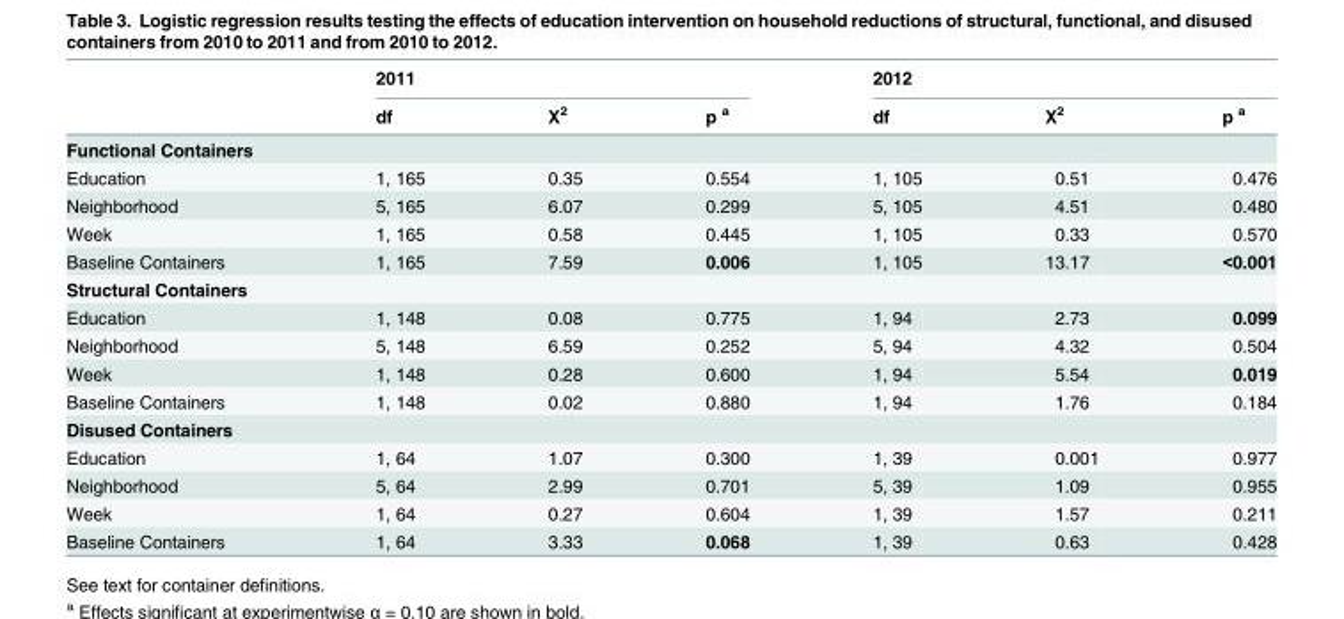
<table><thead><tr><td rowspan="2"></td><td colspan="3">2011</td><td colspan="3">2012</td></tr><tr><td>df</td><td>X<sup>2</sup></td><td>p <sup>a</sup></td><td>df</td><td>X<sup>2</sup></td><td>p <sup>a</sup></td></tr></thead><tbody><tr><td colspan="7">Functional Containers</td></tr><tr><td>Education</td><td>1, 165</td><td>0.35</td><td>0.554</td><td>1, 105</td><td>0.51</td><td>0.476</td></tr><tr><td>Neighborhood</td><td>5, 165</td><td>6.07</td><td>0.299</td><td>5, 105</td><td>4.51</td><td>0.480</td></tr><tr><td>Week</td><td>1, 165</td><td>0.58</td><td>0.445</td><td>1, 105</td><td>0.33</td><td>0.570</td></tr><tr><td>Baseline Containers</td><td>1, 165</td><td>7.59</td><td>0.006</td><td>1, 105</td><td>13.17</td><td>&lt;0.001</td></tr><tr><td colspan="7">Structural Containers</td></tr><tr><td>Education</td><td>1, 148</td><td>0.08</td><td>0.775</td><td>1, 94</td><td>2.73</td><td>0.099</td></tr><tr><td>Neighborhood</td><td>5, 148</td><td>6.59</td><td>0.252</td><td>5, 94</td><td>4.32</td><td>0.504</td></tr><tr><td>Week</td><td>1, 148</td><td>0.28</td><td>0.600</td><td>1, 94</td><td>5.54</td><td>0.019</td></tr><tr><td>Baseline Containers</td><td>1, 148</td><td>0.02</td><td>0.880</td><td>1, 94</td><td>1.76</td><td>0.184</td></tr><tr><td colspan="7">Disused Containers</td></tr><tr><td>Education</td><td>1, 64</td><td>1.07</td><td>0.300</td><td>1, 39</td><td>0.001</td><td>0.977</td></tr><tr><td>Neighborhood</td><td>5, 64</td><td>2.99</td><td>0.701</td><td>5, 39</td><td>1.09</td><td>0.955</td></tr><tr><td>Week</td><td>1, 64</td><td>0.27</td><td>0.604</td><td>1, 39</td><td>1.57</td><td>0.211</td></tr><tr><td>Baseline Containers</td><td>1, 64</td><td>3.33</td><td>0.068</td><td>1, 39</td><td>0.63</td><td>0.428</td></tr></tbody></table>